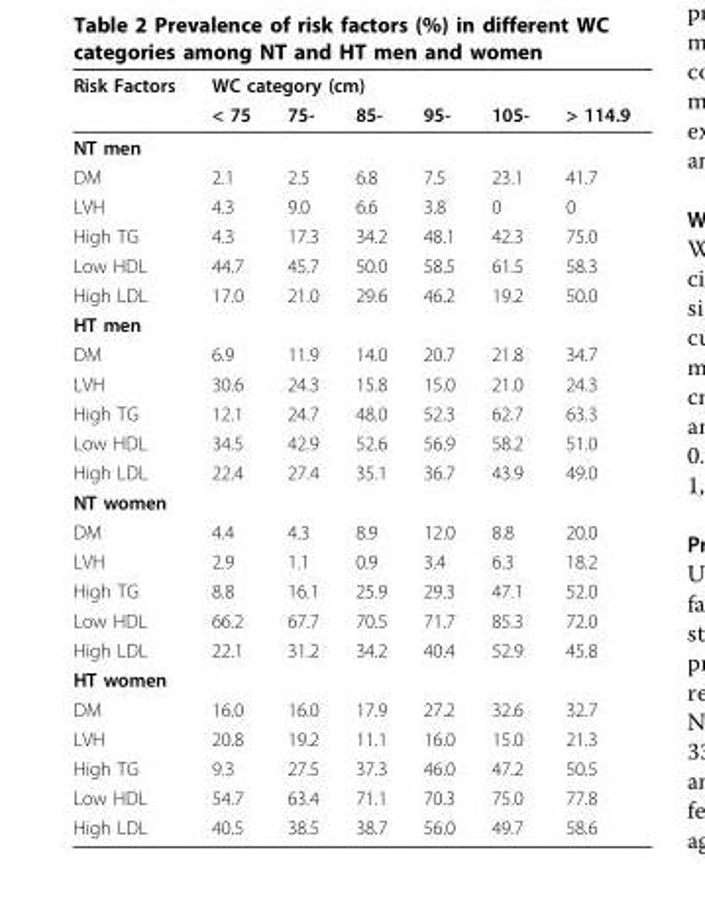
<table><thead><tr><td rowspan="2">Risk Factors</td><td colspan="6">WC category (cm)</td></tr><tr><td>&lt; 75</td><td>75-</td><td>85-</td><td>95-</td><td>105-</td><td>&gt; 114.9</td></tr></thead><tbody><tr><td colspan="7">NT men</td></tr><tr><td>DM</td><td>2.1</td><td>2.5</td><td>6.8</td><td>7.5</td><td>23.1</td><td>41.7</td></tr><tr><td>LVH</td><td>4.3</td><td>9.0</td><td>6.6</td><td>3.8</td><td>0</td><td>0</td></tr><tr><td>High TG</td><td>4.3</td><td>17.3</td><td>34.2</td><td>48.1</td><td>42.3</td><td>75.0</td></tr><tr><td>Low HDL</td><td>44.7</td><td>45.7</td><td>50.0</td><td>58.5</td><td>61.5</td><td>58.3</td></tr><tr><td>High LDL</td><td>17.0</td><td>21.0</td><td>29.6</td><td>46.2</td><td>19.2</td><td>50.0</td></tr><tr><td colspan="7">HT men</td></tr><tr><td>DM</td><td>6.9</td><td>11.9</td><td>14.0</td><td>20.7</td><td>21.8</td><td>34.7</td></tr><tr><td>LVH</td><td>30.6</td><td>24.3</td><td>15.8</td><td>15.0</td><td>21.0</td><td>24.3</td></tr><tr><td>High TG</td><td>12.1</td><td>24.7</td><td>48.0</td><td>52.3</td><td>62.7</td><td>63.3</td></tr><tr><td>Low HDL</td><td>34.5</td><td>42.9</td><td>52.6</td><td>56.9</td><td>58.2</td><td>51.0</td></tr><tr><td>High LDL</td><td>22.4</td><td>27.4</td><td>35.1</td><td>36.7</td><td>43.9</td><td>49.0</td></tr><tr><td colspan="7">NT women</td></tr><tr><td>DM</td><td>4.4</td><td>4.3</td><td>8.9</td><td>12.0</td><td>8.8</td><td>20.0</td></tr><tr><td>LVH</td><td>2.9</td><td>1.1</td><td>0.9</td><td>3.4</td><td>6.3</td><td>18.2</td></tr><tr><td>High TG</td><td>8.8</td><td>16.1</td><td>25.9</td><td>29.3</td><td>47.1</td><td>52.0</td></tr><tr><td>Low HDL</td><td>66.2</td><td>67.7</td><td>70.5</td><td>71.7</td><td>85.3</td><td>72.0</td></tr><tr><td>High LDL</td><td>22.1</td><td>31.2</td><td>34.2</td><td>40.4</td><td>52.9</td><td>45.8</td></tr><tr><td colspan="7">HT women</td></tr><tr><td>DM</td><td>16.0</td><td>16.0</td><td>17.9</td><td>27.2</td><td>32.6</td><td>32.7</td></tr><tr><td>LVH</td><td>20.8</td><td>19.2</td><td>11.1</td><td>16.0</td><td>15.0</td><td>21.3</td></tr><tr><td>High TG</td><td>9.3</td><td>27.5</td><td>37.3</td><td>46.0</td><td>47.2</td><td>50.5</td></tr><tr><td>Low HDL</td><td>54.7</td><td>63.4</td><td>71.1</td><td>70.3</td><td>75.0</td><td>77.8</td></tr><tr><td>High LDL</td><td>40.5</td><td>38.5</td><td>38.7</td><td>56.0</td><td>49.7</td><td>58.6</td></tr></tbody></table>